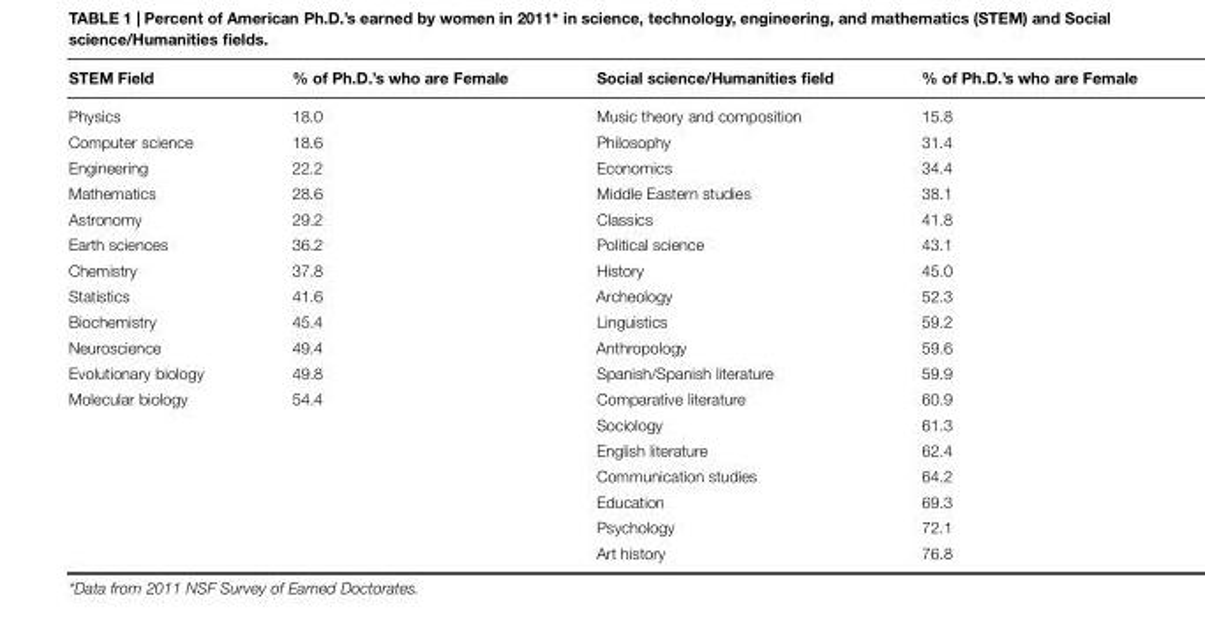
<table><thead><tr><td>STEM Field</td><td>% of Ph.D.’s who are Female</td><td>Social science/Humanities field</td><td>% of Ph.D.’s who are Female</td></tr></thead><tbody><tr><td>Physics</td><td>18.0</td><td>Music theory and composition</td><td>15.8</td></tr><tr><td>Computer science</td><td>18.6</td><td>Philosophy</td><td>31.4</td></tr><tr><td>Engineering</td><td>22.2</td><td>Economics</td><td>34.4</td></tr><tr><td>Mathematics</td><td>28.6</td><td>Middle Eastern studies</td><td>38.1</td></tr><tr><td>Astronomy</td><td>29.2</td><td>Classics</td><td>41.8</td></tr><tr><td>Earth sciences</td><td>36.2</td><td>Political science</td><td>43.1</td></tr><tr><td>Chemistry</td><td>37.8</td><td>History</td><td>45.0</td></tr><tr><td>Statistics</td><td>41.6</td><td>Archeology</td><td>52.3</td></tr><tr><td>Biochemistry</td><td>45.4</td><td>Linguistics</td><td>59.2</td></tr><tr><td>Neuroscience</td><td>49.4</td><td>Anthropology</td><td>59.6</td></tr><tr><td>Evolutionary biology</td><td>49.8</td><td>Spanish/Spanish literature</td><td>59.9</td></tr><tr><td rowspan="7">Molecular biology</td><td>54.4</td><td>Comparative literature</td><td>60.9</td></tr><tr><td></td><td>Sociology</td><td>61.3</td></tr><tr><td></td><td>English literature</td><td>62.4</td></tr><tr><td></td><td>Communication studies</td><td>64.2</td></tr><tr><td></td><td>Education</td><td>69.3</td></tr><tr><td></td><td>Psychology</td><td>72.1</td></tr><tr><td></td><td>Art history</td><td>76.8</td></tr></tbody></table>